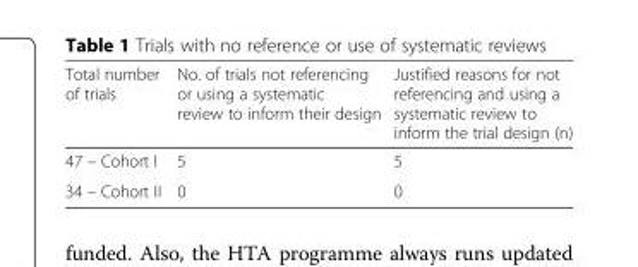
<table><thead><tr><td>Total number of trials</td><td>No. of trials not referencing or using a systematic review to inform their design</td><td>Justified reasons for not referencing and using a systematic review to inform the trial design (n)</td></tr></thead><tbody><tr><td>47 – Cohort I</td><td>5</td><td>5</td></tr><tr><td>34 – Cohort II</td><td>0</td><td>0</td></tr></tbody></table>